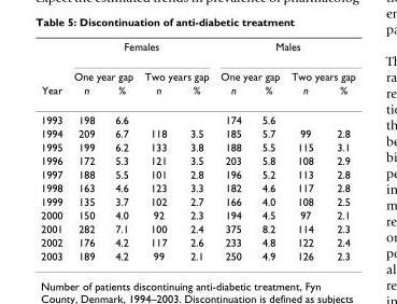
<table><thead><tr><td rowspan="3">Year</td><td colspan="4">Females</td><td colspan="4">Males</td></tr><tr><td colspan="2">One year gap</td><td colspan="2">Two years gap</td><td colspan="2">One year gap</td><td colspan="2">Two years gap</td></tr><tr><td>n</td><td>%</td><td>n</td><td>%</td><td>n</td><td>%</td><td>n</td><td>%</td></tr></thead><tbody><tr><td>1993</td><td>198</td><td>6.6</td><td></td><td></td><td>174</td><td>5.6</td><td></td><td></td></tr><tr><td>1994</td><td>209</td><td>6.7</td><td>118</td><td>3.5</td><td>185</td><td>5.7</td><td>99</td><td>2.8</td></tr><tr><td>1995</td><td>199</td><td>6.2</td><td>133</td><td>3.8</td><td>188</td><td>5.5</td><td>115</td><td>3.1</td></tr><tr><td>1996</td><td>172</td><td>5.3</td><td>121</td><td>3.5</td><td>203</td><td>5.8</td><td>108</td><td>2.9</td></tr><tr><td>1997</td><td>188</td><td>5.5</td><td>101</td><td>2.8</td><td>196</td><td>5.2</td><td>113</td><td>2.8</td></tr><tr><td>1998</td><td>163</td><td>4.6</td><td>123</td><td>3.3</td><td>182</td><td>4.6</td><td>117</td><td>2.8</td></tr><tr><td>1999</td><td>135</td><td>3.7</td><td>102</td><td>2.7</td><td>166</td><td>4.0</td><td>108</td><td>2.5</td></tr><tr><td>2000</td><td>150</td><td>4.0</td><td>92</td><td>2.3</td><td>194</td><td>4.5</td><td>97</td><td>2.1</td></tr><tr><td>2001</td><td>282</td><td>7.1</td><td>100</td><td>2.4</td><td>375</td><td>8.2</td><td>114</td><td>2.3</td></tr><tr><td>2002</td><td>176</td><td>4.2</td><td>117</td><td>2.6</td><td>233</td><td>4.8</td><td>122</td><td>2.4</td></tr><tr><td>2003</td><td>189</td><td>4.2</td><td>99</td><td>2.1</td><td>250</td><td>4.9</td><td>126</td><td>2.3</td></tr></tbody></table>